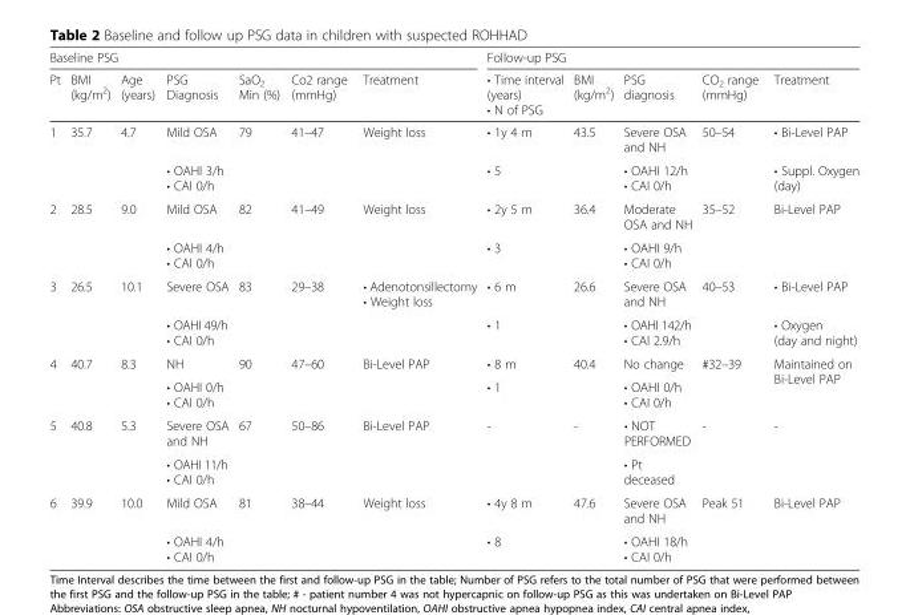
<table><thead><tr><td colspan="7">Baseline PSG</td><td colspan="5">Follow-up PSG</td></tr><tr><td>Pt</td><td>BMI (kg/m<sup>2</sup>)</td><td>Age (years)</td><td>PSG Diagnosis</td><td>SaO<sub>2</sub> Min (%)</td><td>Co2 range (mmHg)</td><td>Treatment</td><td>• Time interval (years) • N of PSG</td><td>BMI (kg/m<sup>2</sup>)</td><td>PSG diagnosis</td><td>CO<sub>2</sub> range (mmHg)</td><td>Treatment</td></tr></thead><tbody><tr><td rowspan="2">1</td><td rowspan="2">35.7</td><td rowspan="2">4.7</td><td>Mild OSA</td><td rowspan="2">79</td><td rowspan="2">41–47</td><td rowspan="2">Weight loss</td><td>• 1y 4 m</td><td rowspan="2">43.5</td><td>Severe OSA and NH</td><td>50–54</td><td>• Bi-Level PAP</td></tr><tr><td>• OAHI 3/h • CAI 0/h</td><td>• 5</td><td>• OAHI 12/h • CAI 0/h</td><td></td><td>• Suppl. Oxygen (day)</td></tr><tr><td rowspan="2">2</td><td rowspan="2">28.5</td><td rowspan="2">9.0</td><td>Mild OSA</td><td rowspan="2">82</td><td rowspan="2">41–49</td><td rowspan="2">Weight loss</td><td>• 2y 5 m</td><td rowspan="2">36.4</td><td>Moderate OSA and NH</td><td rowspan="2">35–52</td><td rowspan="2">Bi-Level PAP</td></tr><tr><td>• OAHI 4/h • CAI 0/h</td><td>• 3</td><td>• OAHI 9/h • CAI 0/h</td></tr><tr><td rowspan="2">3</td><td rowspan="2">26.5</td><td rowspan="2">10.1</td><td>Severe OSA</td><td rowspan="2">83</td><td rowspan="2">29–38</td><td>• Adenotonsillectomy • Weight loss</td><td>• 6 m</td><td rowspan="2">26.6</td><td>Severe OSA and NH</td><td rowspan="2">40–53</td><td>• Bi-Level PAP</td></tr><tr><td>• OAHI 49/h • CAI 0/h</td><td></td><td>• 1</td><td>• OAHI 142/h • CAI 2.9/h</td><td>• Oxygen (day and night)</td></tr><tr><td rowspan="2">4</td><td rowspan="2">40.7</td><td rowspan="2">8.3</td><td>NH</td><td rowspan="2">90</td><td rowspan="2">47–60</td><td rowspan="2">Bi-Level PAP</td><td>• 8 m</td><td rowspan="2">40.4</td><td>No change</td><td rowspan="2">#32–39</td><td rowspan="2">Maintained on Bi-Level PAP</td></tr><tr><td>• OAHI 0/h • CAI 0/h</td><td>• 1</td><td>• OAHI 0/h • CAI 0/h</td></tr><tr><td rowspan="2">5</td><td rowspan="2">40.8</td><td rowspan="2">5.3</td><td>Severe OSA and NH</td><td rowspan="2">67</td><td rowspan="2">50–86</td><td rowspan="2">Bi-Level PAP</td><td rowspan="2">-</td><td rowspan="2">-</td><td>• NOT PERFORMED</td><td rowspan="2">-</td><td rowspan="2">-</td></tr><tr><td>• OAHI 11/h • CAI 0/h</td><td>• Pt deceased</td></tr><tr><td rowspan="2">6</td><td rowspan="2">39.9</td><td rowspan="2">10.0</td><td>Mild OSA</td><td rowspan="2">81</td><td rowspan="2">38–44</td><td rowspan="2">Weight loss</td><td>• 4y 8 m</td><td rowspan="2">47.6</td><td>Severe OSA and NH</td><td rowspan="2">Peak 51</td><td rowspan="2">Bi-Level PAP</td></tr><tr><td>• OAHI 4/h • CAI 0/h</td><td>• 8</td><td>• OAHI 18/h • CAI 0/h</td></tr></tbody></table>